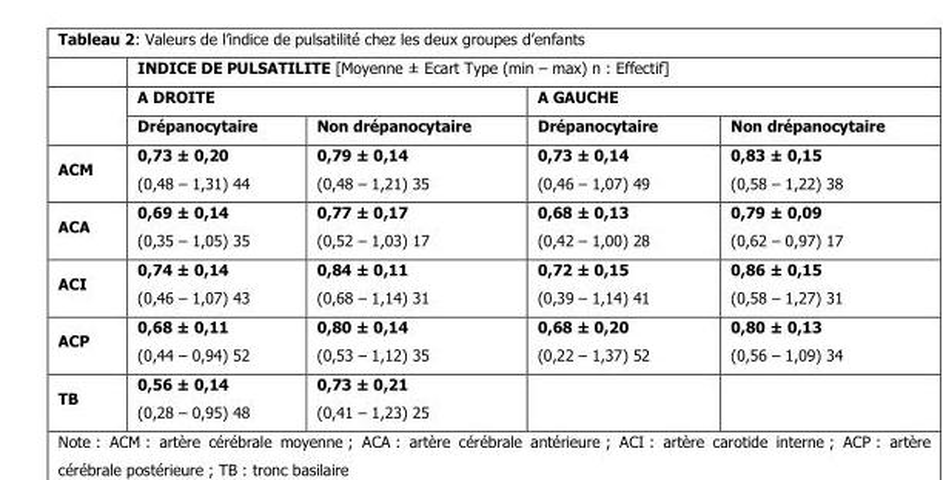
<table><thead><tr><td rowspan="3"></td><td colspan="4">INDICE DE PULSATILITE [Moyenne ± Ecart Type (min – max) n : Effectif]</td></tr><tr><td colspan="2">A DROITE</td><td colspan="2">A GAUCHE</td></tr><tr><td>Drépanocytaire</td><td>Non drépanocytaire</td><td>Drépanocytaire</td><td>Non drépanocytaire</td></tr></thead><tbody><tr><td>ACM</td><td>0,73 ± 0,20 (0,48 – 1,31) 44</td><td>0,79 ± 0,14 (0,48 – 1,21) 35</td><td>0,73 ± 0,14 (0,46 – 1,07) 49</td><td>0,83 ± 0,15 (0,58 – 1,22) 38</td></tr><tr><td>ACA</td><td>0,69 ± 0,14 (0,35 – 1,05) 35</td><td>0,77 ± 0,17 (0,52 – 1,03) 17</td><td>0,68 ± 0,13 (0,42 – 1,00) 28</td><td>0,79 ± 0,09 (0,62 – 0,97) 17</td></tr><tr><td>ACI</td><td>0,74 ± 0,14 (0,46 – 1,07) 43</td><td>0,84 ± 0,11 (0,68 – 1,14) 31</td><td>0,72 ± 0,15 (0,39 – 1,14) 41</td><td>0,86 ± 0,15 (0,58 – 1,27) 31</td></tr><tr><td>ACP</td><td>0,68 ± 0,11 (0,44 – 0,94) 52</td><td>0,80 ± 0,14 (0,53 – 1,12) 35</td><td>0,68 ± 0,20 (0,22 – 1,37) 52</td><td>0,80 ± 0,13 (0,56 – 1,09) 34</td></tr><tr><td>TB</td><td>0,56 ± 0,14 (0,28 – 0,95) 48</td><td>0,73 ± 0,21 (0,41 – 1,23) 25</td><td></td><td></td></tr></tbody></table>